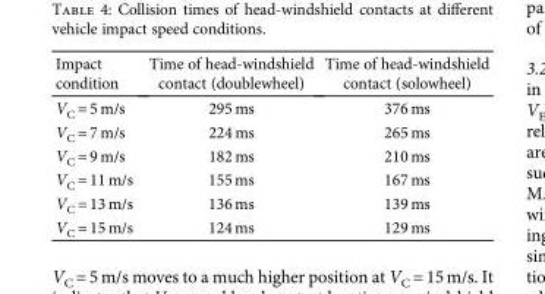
<table><thead><tr><td>Impact condition</td><td>Time of head-windshield contact (doublewheel)</td><td>Time of head-windshield contact (solowheel)</td></tr></thead><tbody><tr><td>V<sub>C</sub> = 5 m/s</td><td>295 ms</td><td>376 ms</td></tr><tr><td>V<sub>C</sub> = 7 m/s</td><td>224 ms</td><td>265 ms</td></tr><tr><td>V<sub>C</sub> = 9 m/s</td><td>182 ms</td><td>210 ms</td></tr><tr><td>V<sub>C</sub> = 11 m/s</td><td>155 ms</td><td>167 ms</td></tr><tr><td>V<sub>C</sub> = 13 m/s</td><td>136 ms</td><td>139 ms</td></tr><tr><td>V<sub>C</sub> = 15 m/s</td><td>124 ms</td><td>129 ms</td></tr></tbody></table>